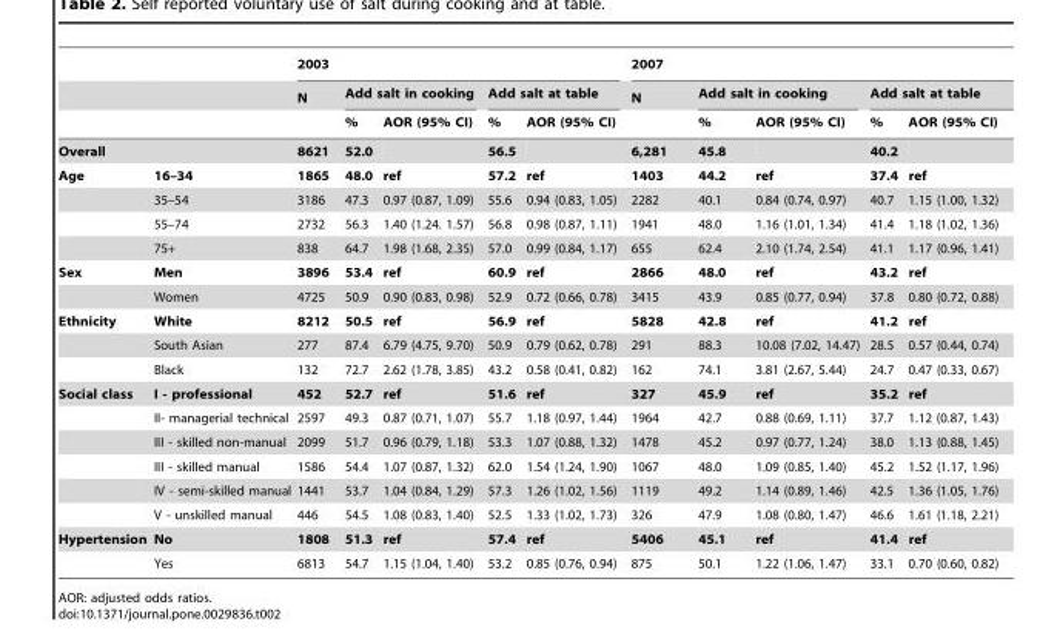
<table><thead><tr><td rowspan="3"></td><td rowspan="3"></td><td colspan="5">2003</td><td colspan="5">2007</td></tr><tr><td rowspan="2">N</td><td colspan="2">Add salt in cooking</td><td colspan="2">Add salt at table</td><td rowspan="2">N</td><td colspan="2">Add salt in cooking</td><td colspan="2">Add salt at table</td></tr><tr><td>%</td><td>AOR (95% CI)</td><td>%</td><td>AOR (95% CI)</td><td>%</td><td>AOR (95% CI)</td><td>%</td><td>AOR (95% CI)</td></tr></thead><tbody><tr><td>Overall</td><td></td><td>8621</td><td>52.0</td><td></td><td>56.5</td><td></td><td>6,281</td><td>45.8</td><td></td><td>40.2</td><td></td></tr><tr><td rowspan="4">Age</td><td>16–34</td><td>1865</td><td>48.0</td><td>ref</td><td>57.2</td><td>ref</td><td>1403</td><td>44.2</td><td>ref</td><td>37.4</td><td>ref</td></tr><tr><td>35–54</td><td>3186</td><td>47.3</td><td>0.97 (0.87, 1.09)</td><td>55.6</td><td>0.94 (0.83, 1.05)</td><td>2282</td><td>40.1</td><td>0.84 (0.74, 0.97)</td><td>40.7</td><td>1.15 (1.00, 1.32)</td></tr><tr><td>55–74</td><td>2732</td><td>56.3</td><td>1.40 (1.24. 1.57)</td><td>56.8</td><td>0.98 (0.87, 1.11)</td><td>1941</td><td>48.0</td><td>1.16 (1.01, 1.34)</td><td>41.4</td><td>1.18 (1.02, 1.36)</td></tr><tr><td>75+</td><td>838</td><td>64.7</td><td>1.98 (1.68, 2.35)</td><td>57.0</td><td>0.99 (0.84, 1.17)</td><td>655</td><td>62.4</td><td>2.10 (1.74, 2.54)</td><td>41.1</td><td>1.17 (0.96, 1.41)</td></tr><tr><td rowspan="2">Sex</td><td>Men</td><td>3896</td><td>53.4</td><td>ref</td><td>60.9</td><td>ref</td><td>2866</td><td>48.0</td><td>ref</td><td>43.2</td><td>ref</td></tr><tr><td>Women</td><td>4725</td><td>50.9</td><td>0.90 (0.83, 0.98)</td><td>52.9</td><td>0.72 (0.66, 0.78)</td><td>3415</td><td>43.9</td><td>0.85 (0.77, 0.94)</td><td>37.8</td><td>0.80 (0.72, 0.88)</td></tr><tr><td rowspan="3">Ethnicity</td><td>White</td><td>8212</td><td>50.5</td><td>ref</td><td>56.9</td><td>ref</td><td>5828</td><td>42.8</td><td>ref</td><td>41.2</td><td>ref</td></tr><tr><td>South Asian</td><td>277</td><td>87.4</td><td>6.79 (4.75, 9.70)</td><td>50.9</td><td>0.79 (0.62, 0.78)</td><td>291</td><td>88.3</td><td>10.08 (7.02, 14.47)</td><td>28.5</td><td>0.57 (0.44, 0.74)</td></tr><tr><td>Black</td><td>132</td><td>72.7</td><td>2.62 (1.78, 3.85)</td><td>43.2</td><td>0.58 (0.41, 0.82)</td><td>162</td><td>74.1</td><td>3.81 (2.67, 5.44)</td><td>24.7</td><td>0.47 (0.33, 0.67)</td></tr><tr><td rowspan="6">Social class</td><td>I - professional</td><td>452</td><td>52.7</td><td>ref</td><td>51.6</td><td>ref</td><td>327</td><td>45.9</td><td>ref</td><td>35.2</td><td>ref</td></tr><tr><td>II- managerial technical</td><td>2597</td><td>49.3</td><td>0.87 (0.71, 1.07)</td><td>55.7</td><td>1.18 (0.97, 1.44)</td><td>1964</td><td>42.7</td><td>0.88 (0.69, 1.11)</td><td>37.7</td><td>1.12 (0.87, 1.43)</td></tr><tr><td>III - skilled non-manual</td><td>2099</td><td>51.7</td><td>0.96 (0.79, 1.18)</td><td>53.3</td><td>1.07 (0.88, 1.32)</td><td>1478</td><td>45.2</td><td>0.97 (0.77, 1.24)</td><td>38.0</td><td>1.13 (0.88, 1.45)</td></tr><tr><td>III - skilled manual</td><td>1586</td><td>54.4</td><td>1.07 (0.87, 1.32)</td><td>62.0</td><td>1.54 (1.24, 1.90)</td><td>1067</td><td>48.0</td><td>1.09 (0.85, 1.40)</td><td>45.2</td><td>1.52 (1.17, 1.96)</td></tr><tr><td>IV - semi-skilled manual</td><td>1441</td><td>53.7</td><td>1.04 (0.84, 1.29)</td><td>57.3</td><td>1.26 (1.02, 1.56)</td><td>1119</td><td>49.2</td><td>1.14 (0.89, 1.46)</td><td>42.5</td><td>1.36 (1.05, 1.76)</td></tr><tr><td>V - unskilled manual</td><td>446</td><td>54.5</td><td>1.08 (0.83, 1.40)</td><td>52.5</td><td>1.33 (1.02, 1.73)</td><td>326</td><td>47.9</td><td>1.08 (0.80, 1.47)</td><td>46.6</td><td>1.61 (1.18, 2.21)</td></tr><tr><td rowspan="2">Hypertension</td><td>No</td><td>1808</td><td>51.3</td><td>ref</td><td>57.4</td><td>ref</td><td>5406</td><td>45.1</td><td>ref</td><td>41.4</td><td>ref</td></tr><tr><td>Yes</td><td>6813</td><td>54.7</td><td>1.15 (1.04, 1.40)</td><td>53.2</td><td>0.85 (0.76, 0.94)</td><td>875</td><td>50.1</td><td>1.22 (1.06, 1.47)</td><td>33.1</td><td>0.70 (0.60, 0.82)</td></tr></tbody></table>